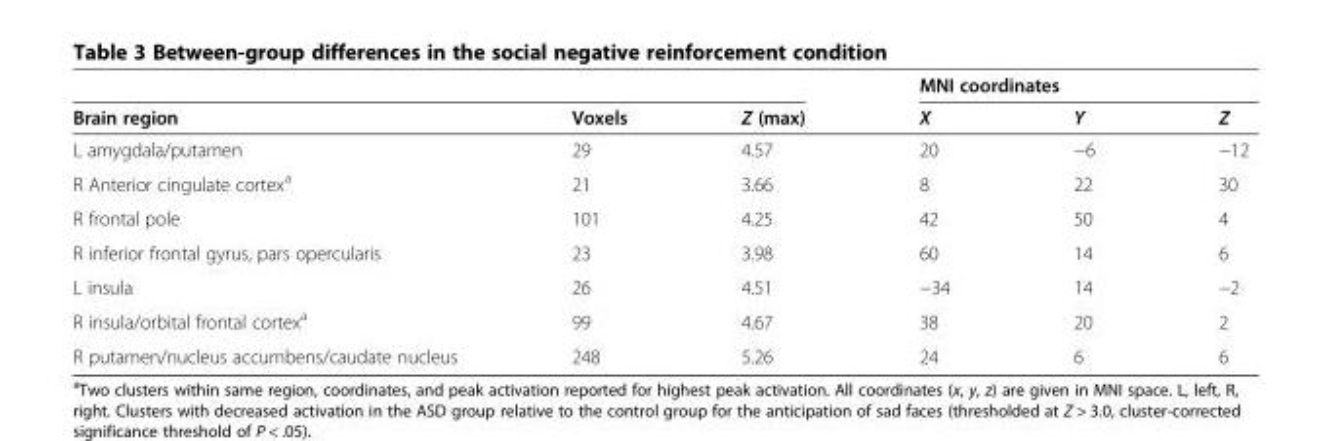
<table><thead><tr><td rowspan="2">Brain region</td><td rowspan="2">Voxels</td><td rowspan="2">Z (max)</td><td colspan="3">MNI coordinates</td></tr><tr><td>X</td><td>Y</td><td>Z</td></tr></thead><tbody><tr><td>L amygdala/putamen</td><td>29</td><td>4.57</td><td>20</td><td>−6</td><td>−12</td></tr><tr><td>R Anterior cingulate cortex<sup>a</sup></td><td>21</td><td>3.66</td><td>8</td><td>22</td><td>30</td></tr><tr><td>R frontal pole</td><td>101</td><td>4.25</td><td>42</td><td>50</td><td>4</td></tr><tr><td>R inferior frontal gyrus, pars opercularis</td><td>23</td><td>3.98</td><td>60</td><td>14</td><td>6</td></tr><tr><td>L insula</td><td>26</td><td>4.51</td><td>−34</td><td>14</td><td>−2</td></tr><tr><td>R insula/orbital frontal cortex<sup>a</sup></td><td>99</td><td>4.67</td><td>38</td><td>20</td><td>2</td></tr><tr><td>R putamen/nucleus accumbens/caudate nucleus</td><td>248</td><td>5.26</td><td>24</td><td>6</td><td>6</td></tr></tbody></table>